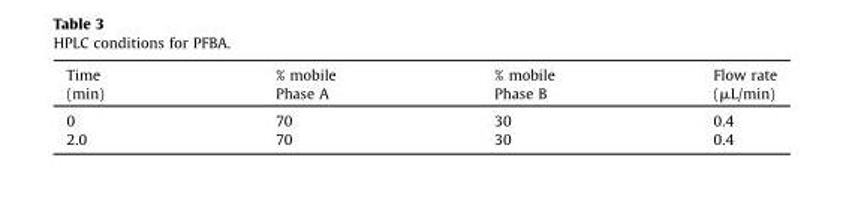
<table><thead><tr><td>Time (min)</td><td>% mobile Phase A</td><td>% mobile Phase B</td><td>Flow rate (μL/min)</td></tr></thead><tbody><tr><td>0</td><td>70</td><td>30</td><td>0.4</td></tr><tr><td>2.0</td><td>70</td><td>30</td><td>0.4</td></tr></tbody></table>